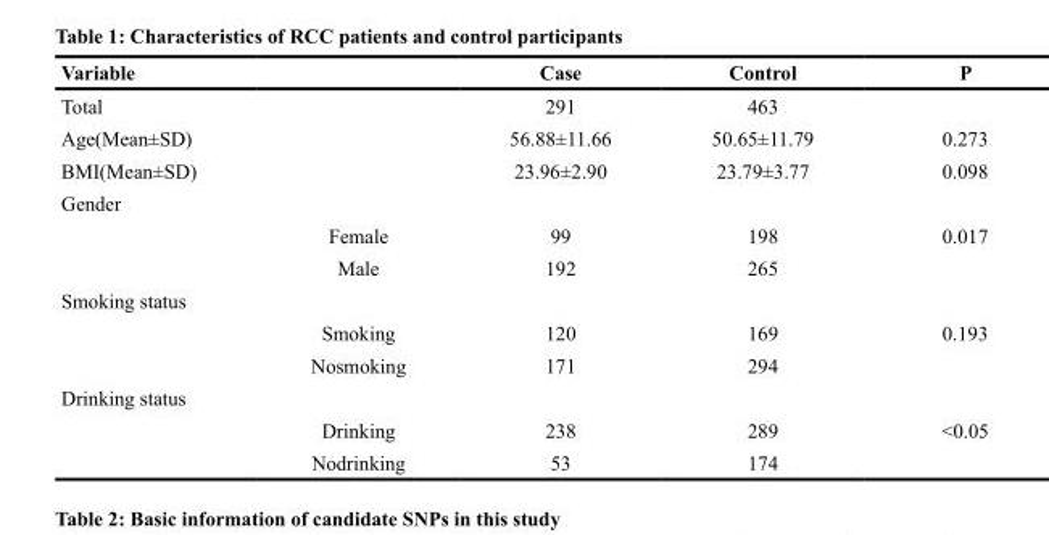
<table><thead><tr><td>Variable</td><td></td><td>Case</td><td>Control</td><td>P</td></tr></thead><tbody><tr><td>Total</td><td></td><td>291</td><td>463</td><td></td></tr><tr><td>Age(Mean±SD)</td><td></td><td>56.88±11.66</td><td>50.65±11.79</td><td>0.273</td></tr><tr><td>BMI(Mean±SD)</td><td></td><td>23.96±2.90</td><td>23.79±3.77</td><td>0.098</td></tr><tr><td colspan="5">Gender</td></tr><tr><td></td><td>Female</td><td>99</td><td>198</td><td>0.017</td></tr><tr><td></td><td>Male</td><td>192</td><td>265</td><td></td></tr><tr><td colspan="5">Smoking status</td></tr><tr><td></td><td>Smoking</td><td>120</td><td>169</td><td>0.193</td></tr><tr><td></td><td>Nosmoking</td><td>171</td><td>294</td><td></td></tr><tr><td colspan="5">Drinking status</td></tr><tr><td></td><td>Drinking</td><td>238</td><td>289</td><td>&lt;0.05</td></tr><tr><td></td><td>Nodrinking</td><td>53</td><td>174</td><td></td></tr></tbody></table>